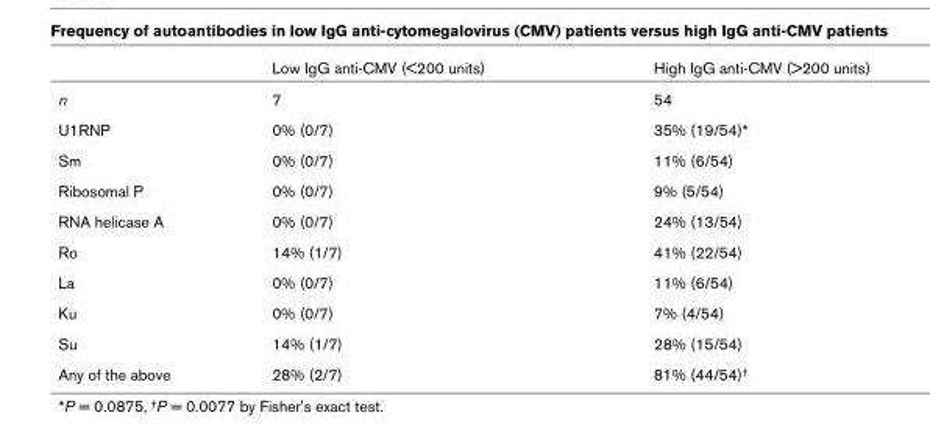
<table><thead><tr><td></td><td>Low IgG anti-CMV (&lt;200 units)</td><td>High IgG anti-CMV (&gt;200 units)</td></tr></thead><tbody><tr><td>n</td><td>7</td><td>54</td></tr><tr><td>U1RNP</td><td>0% (0/7)</td><td>35% (19/54)*</td></tr><tr><td>Sm</td><td>0% (0/7)</td><td>11% (6/54)</td></tr><tr><td>Ribosomal P</td><td>0% (0/7)</td><td>9% (5/54)</td></tr><tr><td>RNA helicase A</td><td>0% (0/7)</td><td>24% (13/54)</td></tr><tr><td>Ro</td><td>14% (1/7)</td><td>41% (22/54)</td></tr><tr><td>La</td><td>0% (0/7)</td><td>11% (6/54)</td></tr><tr><td>Ku</td><td>0% (0/7)</td><td>7% (4/54)</td></tr><tr><td>Su</td><td>14% (1/7)</td><td>28% (15/54)</td></tr><tr><td>Any of the above</td><td>28% (2/7)</td><td>81% (44/54)<sup>†</sup></td></tr></tbody></table>